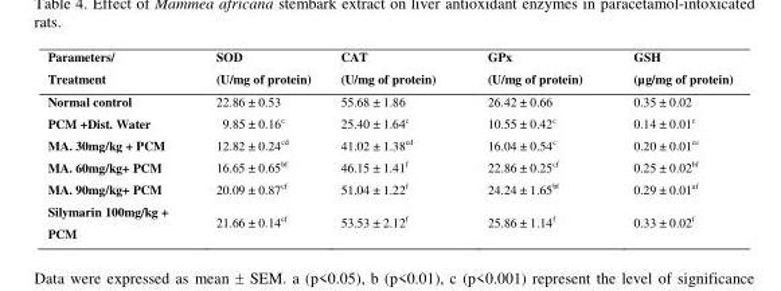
<table><thead><tr><td>Parameters/ Treatment</td><td>SOD (U/mg of protein)</td><td>CAT (U/mg of protein)</td><td>GPx (U/mg of protein)</td><td>GSH (µg/mg of protein)</td></tr></thead><tbody><tr><td>Normal control</td><td>22.86 ± 0.53</td><td>55.68 ± 1.86</td><td>26.42 ± 0.66</td><td>0.35 ± 0.02</td></tr><tr><td>PCM +Dist. Water</td><td>9.85 ± 0.16<sup>c</sup></td><td>25.40 ± 1.64<sup>c</sup></td><td>10.55 ± 0.42<sup>c</sup></td><td>0.14 ± 0.01<sup>c</sup></td></tr><tr><td>MA. 30mg/kg + PCM</td><td>12.82 ± 0.24<sup>cd</sup></td><td>41.02 ± 1.38<sup>cd</sup></td><td>16.04 ± 0.54<sup>c</sup></td><td>0.20 ± 0.01<sup>ce</sup></td></tr><tr><td>MA. 60mg/kg+ PCM</td><td>16.65 ± 0.65<sup>bf</sup></td><td>46.15 ± 1.41<sup>f</sup></td><td>22.86 ± 0.25<sup>cf</sup></td><td>0.25 ± 0.02<sup>bf</sup></td></tr><tr><td>MA. 90mg/kg+ PCM</td><td>20.09 ± 0.87<sup>cf</sup></td><td>51.04 ± 1.22<sup>f</sup></td><td>24.24 ± 1.65<sup>bf</sup></td><td>0.29 ± 0.01<sup>af</sup></td></tr><tr><td>Silymarin 100mg/kg + PCM</td><td>21.66 ± 0.14<sup>cf</sup></td><td>53.53 ± 2.12<sup>f</sup></td><td>25.86 ± 1.14<sup>f</sup></td><td>0.33 ± 0.02<sup>f</sup></td></tr></tbody></table>